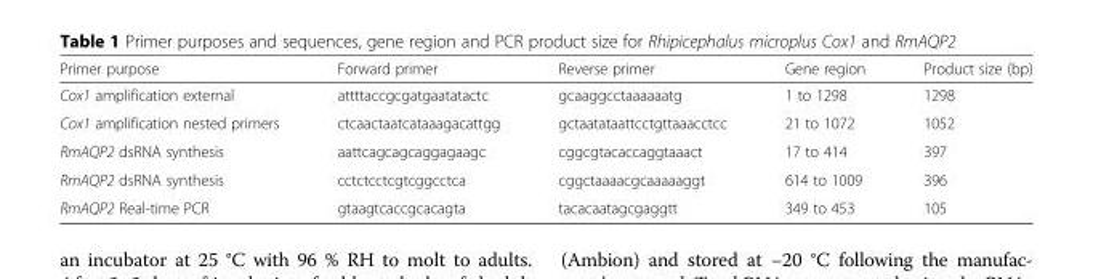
<table><thead><tr><td>Primer purpose</td><td>Forward primer</td><td>Reverse primer</td><td>Gene region</td><td>Product size (bp)</td></tr></thead><tbody><tr><td>Cox1 amplification external</td><td>attttaccgcgatgaatatactc</td><td>gcaaggcctaaaaaatg</td><td>1 to 1298</td><td>1298</td></tr><tr><td>Cox1 amplification nested primers</td><td>ctcaactaatcataaagacattgg</td><td>gctaatataattcctgttaaacctcc</td><td>21 to 1072</td><td>1052</td></tr><tr><td>RmAQP2 dsRNA synthesis</td><td>aattcagcagcaggagaagc</td><td>cggcgtacaccaggtaaact</td><td>17 to 414</td><td>397</td></tr><tr><td>RmAQP2 dsRNA synthesis</td><td>cctctcctcgtcggcctca</td><td>cggctaaaacgcaaaaaggt</td><td>614 to 1009</td><td>396</td></tr><tr><td>RmAQP2 Real-time PCR</td><td>gtaagtcaccgcacagta</td><td>tacacaatagcgaggtt</td><td>349 to 453</td><td>105</td></tr></tbody></table>